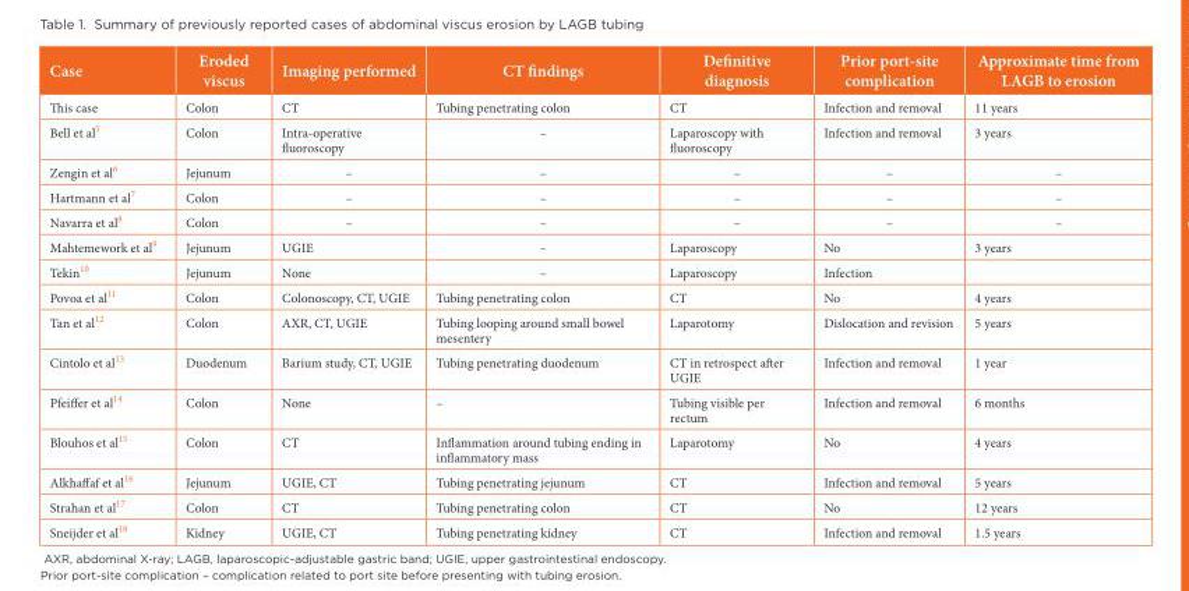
<table><thead><tr><td>Case</td><td>Eroded viscus</td><td>Imaging performed</td><td>CT findings</td><td>Definitive diagnosis</td><td>Prior port-site complication</td><td>Approximate time from LAGB to erosion</td></tr></thead><tbody><tr><td>This case</td><td>Colon</td><td>CT</td><td>Tubing penetrating colon</td><td>CT</td><td>Infection and removal</td><td>11 years</td></tr><tr><td>Bell et al<sup>5</sup></td><td>Colon</td><td>Intra-operative fluoroscopy</td><td>–</td><td>Laparoscopy with fluoroscopy</td><td>Infection and removal</td><td>3 years</td></tr><tr><td>Zengin et al<sup>6</sup></td><td>Jejunum</td><td>–</td><td>–</td><td>–</td><td>–</td><td>–</td></tr><tr><td>Hartmann et al<sup>7</sup></td><td>Colon</td><td>–</td><td>–</td><td>–</td><td>–</td><td>–</td></tr><tr><td>Navarra et al<sup>8</sup></td><td>Colon</td><td>–</td><td>–</td><td>–</td><td>–</td><td>–</td></tr><tr><td>Mahtemework et al<sup>9</sup></td><td>Jejunum</td><td>UGIE</td><td>–</td><td>Laparoscopy</td><td>No</td><td>3 years</td></tr><tr><td>Tekin<sup>10</sup></td><td>Jejunum</td><td>None</td><td>–</td><td>Laparoscopy</td><td>Infection</td><td></td></tr><tr><td>Povoa et al<sup>11</sup></td><td>Colon</td><td>Colonoscopy, CT, UGIE</td><td>Tubing penetrating colon</td><td>CT</td><td>No</td><td>4 years</td></tr><tr><td>Tan et al<sup>12</sup></td><td>Colon</td><td>AXR, CT, UGIE</td><td>Tubing looping around small bowel mesentery</td><td>Laparotomy</td><td>Dislocation and revision</td><td>5 years</td></tr><tr><td>Cintolo et al<sup>13</sup></td><td>Duodenum</td><td>Barium study, CT, UGIE</td><td>Tubing penetrating duodenum</td><td>CT in retrospect after UGIE</td><td>Infection and removal</td><td>1 year</td></tr><tr><td>Pfeiffer et al<sup>14</sup></td><td>Colon</td><td>None</td><td>–</td><td>Tubing visible per rectum</td><td>Infection and removal</td><td>6 months</td></tr><tr><td>Blouhos et al<sup>15</sup></td><td>Colon</td><td>CT</td><td>Inflammation around tubing ending in inflammatory mass</td><td>Laparotomy</td><td>No</td><td>4 years</td></tr><tr><td>Alkhaffaf et al<sup>16</sup></td><td>Jejunum</td><td>UGIE, CT</td><td>Tubing penetrating jejunum</td><td>CT</td><td>Infection and removal</td><td>5 years</td></tr><tr><td>Strahan et al<sup>17</sup></td><td>Colon</td><td>CT</td><td>Tubing penetrating colon</td><td>CT</td><td>No</td><td>12 years</td></tr><tr><td>Sneijder et al<sup>18</sup></td><td>Kidney</td><td>UGIE, CT</td><td>Tubing penetrating kidney</td><td>CT</td><td>Infection and removal</td><td>1.5 years</td></tr></tbody></table>